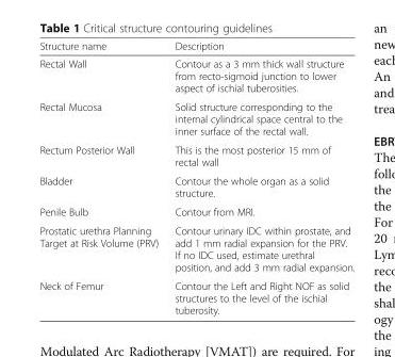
<table><thead><tr><td>Structure name</td><td>Description</td></tr></thead><tbody><tr><td>Rectal Wall</td><td>Contour as a 3 mm thick wall structure from recto-sigmoid junction to lower aspect of ischial tuberosities.</td></tr><tr><td>Rectal Mucosa</td><td>Solid structure corresponding to the internal cylindrical space central to the inner surface of the rectal wall.</td></tr><tr><td>Rectum Posterior Wall</td><td>This is the most posterior 15 mm of rectal wall</td></tr><tr><td>Bladder</td><td>Contour the whole organ as a solid structure.</td></tr><tr><td>Penile Bulb</td><td>Contour from MRI.</td></tr><tr><td>Prostatic urethra Planning Target at Risk Volume (PRV)</td><td>Contour urinary IDC within prostate, and add 1 mm radial expansion for the PRV. If no IDC used, estimate urethral position, and add 3 mm radial expansion.</td></tr><tr><td>Neck of Femur</td><td>Contour the Left and Right NOF as solid structures to the level of the ischial tuberosity.</td></tr></tbody></table>